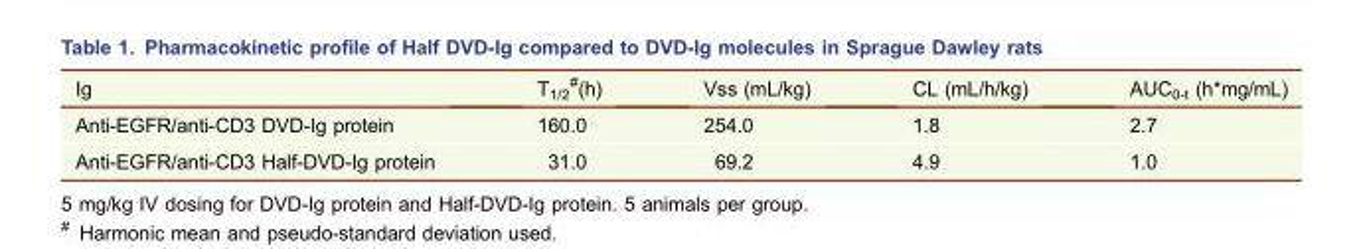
<table><thead><tr><td>Ig</td><td>T<sub>1/2</sub> <sup>#</sup>(h)</td><td>Vss (mL/kg)</td><td>CL (mL/h/kg)</td><td>AUC<sub>0-t</sub> (h*mg/mL)</td></tr></thead><tbody><tr><td>Anti-EGFR/anti-CD3 DVD-Ig protein</td><td>160.0</td><td>254.0</td><td>1.8</td><td>2.7</td></tr><tr><td>Anti-EGFR/anti-CD3 Half-DVD-Ig protein</td><td>31.0</td><td>69.2</td><td>4.9</td><td>1.0</td></tr></tbody></table>